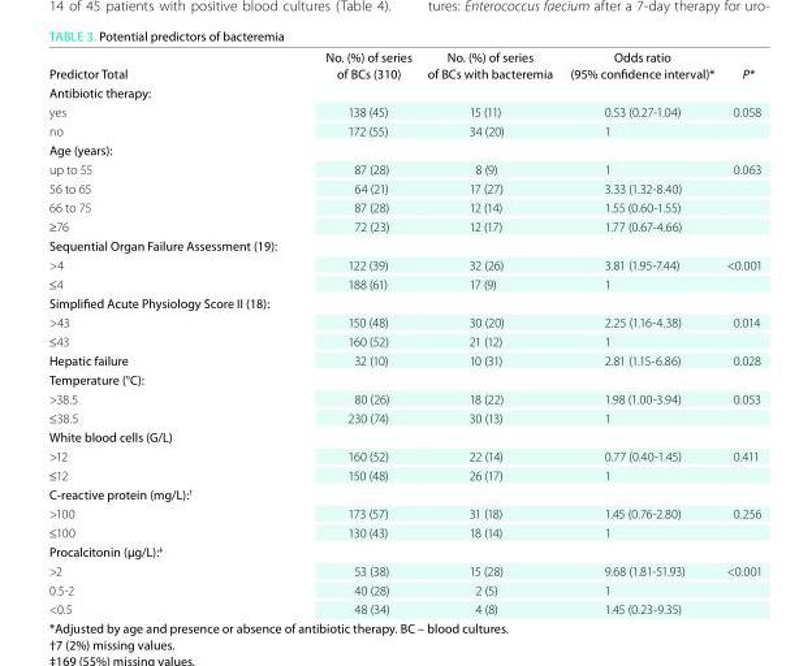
<table><thead><tr><td>Predictor Total</td><td>No. (%) of series of BCs (310)</td><td>No. (%) of series of BCs with bacteremia</td><td>Odds ratio (95% confidence interval)*</td><td>P*</td></tr></thead><tbody><tr><td colspan="5">Antibiotic therapy:</td></tr><tr><td>yes</td><td>138 (45)</td><td>15 (11)</td><td>0.53 (0.27-1.04)</td><td>0.058</td></tr><tr><td>no</td><td>172 (55)</td><td>34 (20)</td><td>1</td><td></td></tr><tr><td colspan="5">Age (years):</td></tr><tr><td>up to 55</td><td>87 (28)</td><td>8 (9)</td><td>1</td><td>0.063</td></tr><tr><td>56 to 65</td><td>64 (21)</td><td>17 (27)</td><td>3.33 (1.32-8.40)</td><td></td></tr><tr><td>66 to 75</td><td>87 (28)</td><td>12 (14)</td><td>1.55 (0.60-1.55)</td><td></td></tr><tr><td>≥76</td><td>72 (23)</td><td>12 (17)</td><td>1.77 (0.67-4.66)</td><td></td></tr><tr><td colspan="5">Sequential Organ Failure Assessment (19):</td></tr><tr><td>&gt;4</td><td>122 (39)</td><td>32 (26)</td><td>3.81 (1.95-7.44)</td><td>&lt;0.001</td></tr><tr><td>≤4</td><td>188 (61)</td><td>17 (9)</td><td>1</td><td></td></tr><tr><td colspan="5">Simplified Acute Physiology Score ii (18):</td></tr><tr><td>&gt;43</td><td>150 (48)</td><td>30 (20)</td><td>2.25 (1.16-4.38)</td><td>0.014</td></tr><tr><td>≤43</td><td>160 (52)</td><td>21 (12)</td><td>1</td><td></td></tr><tr><td>Hepatic failure</td><td>32 (10)</td><td>10 (31)</td><td>2.81 (1.15-6.86)</td><td>0.028</td></tr><tr><td colspan="5">Temperature (°C):</td></tr><tr><td>&gt;38.5</td><td>80 (26)</td><td>18 (22)</td><td>1.98 (1.00-3.94)</td><td>0.053</td></tr><tr><td>≤38.5</td><td>230 (74)</td><td>30 (13)</td><td>1</td><td></td></tr><tr><td colspan="5">White blood cells (G/l)</td></tr><tr><td>&gt;12</td><td>160 (52)</td><td>22 (14)</td><td>0.77 (0.40-1.45)</td><td>0.411</td></tr><tr><td>≤12</td><td>150 (48)</td><td>26 (17)</td><td>1</td><td></td></tr><tr><td colspan="5">C-reactive protein (mg/l):<sup>†</sup></td></tr><tr><td>&gt;100</td><td>173 (57)</td><td>31 (18)</td><td>1.45 (0.76-2.80)</td><td>0.256</td></tr><tr><td>≤100</td><td>130 (43)</td><td>18 (14)</td><td>1</td><td></td></tr><tr><td colspan="5">Procalcitonin (μg/l):<sup>‡</sup></td></tr><tr><td>&gt;2</td><td>53 (38)</td><td>15 (28)</td><td>9.68 (1.81-51.93)</td><td>&lt;0.001</td></tr><tr><td>0.5-2</td><td>40 (28)</td><td>2 (5)</td><td>1</td><td></td></tr><tr><td>&lt;0.5</td><td>48 (34)</td><td>4 (8)</td><td>1.45 (0.23-9.35)</td><td></td></tr></tbody></table>